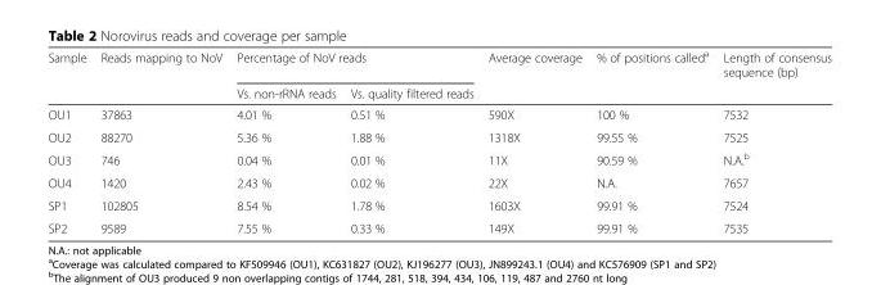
<table><thead><tr><td rowspan="2">Sample</td><td rowspan="2">Reads mapping to NoV</td><td colspan="2">Percentage of NoV reads</td><td rowspan="2">Average coverage</td><td rowspan="2">% of positions called<sup>a</sup></td><td rowspan="2">Length of consensus sequence (bp)</td></tr><tr><td>Vs. non-rRNA reads</td><td>Vs. quality filtered reads</td></tr></thead><tbody><tr><td>OU1</td><td>37863</td><td>4.01 %</td><td>0.51 %</td><td>590X</td><td>100 %</td><td>7532</td></tr><tr><td>OU2</td><td>88270</td><td>5.36 %</td><td>1.88 %</td><td>1318X</td><td>99.55 %</td><td>7525</td></tr><tr><td>OU3</td><td>746</td><td>0.04 %</td><td>0.01 %</td><td>11X</td><td>90.59 %</td><td>N.A.<sup>b</sup></td></tr><tr><td>OU4</td><td>1420</td><td>2.43 %</td><td>0.02 %</td><td>22X</td><td>N.A.</td><td>7657</td></tr><tr><td>SP1</td><td>102805</td><td>8.54 %</td><td>1.78 %</td><td>1603X</td><td>99.91 %</td><td>7524</td></tr><tr><td>SP2</td><td>9589</td><td>7.55 %</td><td>0.33 %</td><td>149X</td><td>99.91 %</td><td>7535</td></tr></tbody></table>